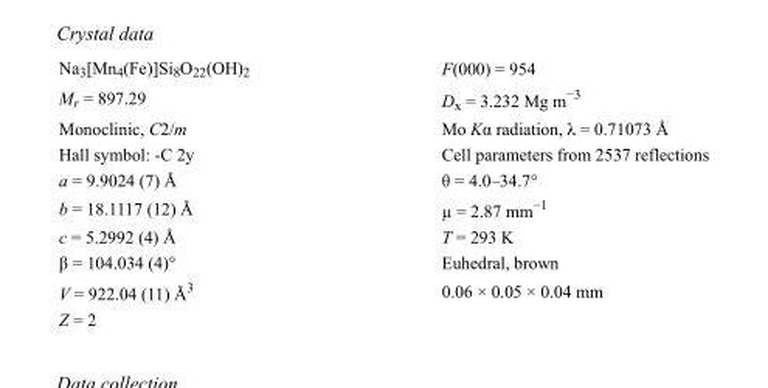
<table><tbody><tr><td>Na<sub>3</sub>[Mn<sub>4</sub>(Fe)]Si<sub>8</sub>O<sub>22</sub>(OH)<sub>2</sub></td><td>F(000) = 954</td></tr><tr><td>M<sub>r</sub> = 897.29</td><td>D<sub>x</sub> = 3.232 Mg m<sup>−3</sup></td></tr><tr><td>Monoclinic, C2/m</td><td>Mo Kα radiation, λ = 0.71073 Å</td></tr><tr><td>Hall symbol: -C 2y</td><td>Cell parameters from 2537 reflections</td></tr><tr><td>a = 9.9024 (7) Å</td><td>θ = 4.0–34.7°</td></tr><tr><td>b = 18.1117 (12) Å</td><td>µ = 2.87 mm<sup>−1</sup></td></tr><tr><td>c = 5.2992 (4) Å</td><td>T = 293 K</td></tr><tr><td>β = 104.034 (4)°</td><td>Euhedral, brown</td></tr><tr><td>V = 922.04 (11) Å<sup>3</sup></td><td>0.06 × 0.05 × 0.04 mm</td></tr><tr><td>Z = 2</td><td></td></tr></tbody></table>